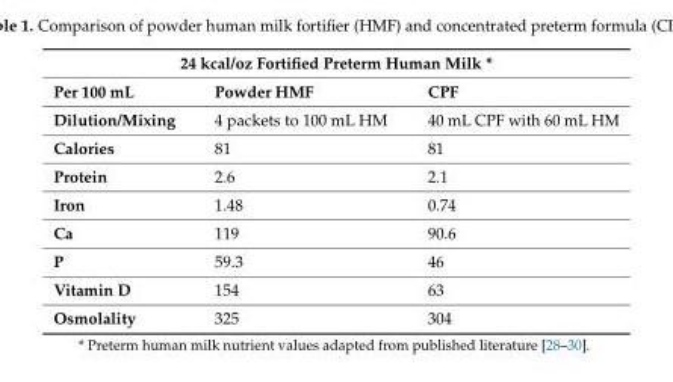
<table><thead><tr><td colspan="3">24 kcal/oz Fortified Preterm Human Milk *</td></tr><tr><td>Per 100 mL</td><td>Powder HMF</td><td>CPF</td></tr></thead><tbody><tr><td>Dilution/Mixing</td><td>4 packets to 100 mL HM</td><td>40 mL CPF with 60 mL HM</td></tr><tr><td>Calories</td><td>81</td><td>81</td></tr><tr><td>Protein</td><td>2.6</td><td>2.1</td></tr><tr><td>Iron</td><td>1.48</td><td>0.74</td></tr><tr><td>Ca</td><td>119</td><td>90.6</td></tr><tr><td>P</td><td>59.3</td><td>46</td></tr><tr><td>Vitamin D</td><td>154</td><td>63</td></tr><tr><td>Osmolality</td><td>325</td><td>304</td></tr></tbody></table>